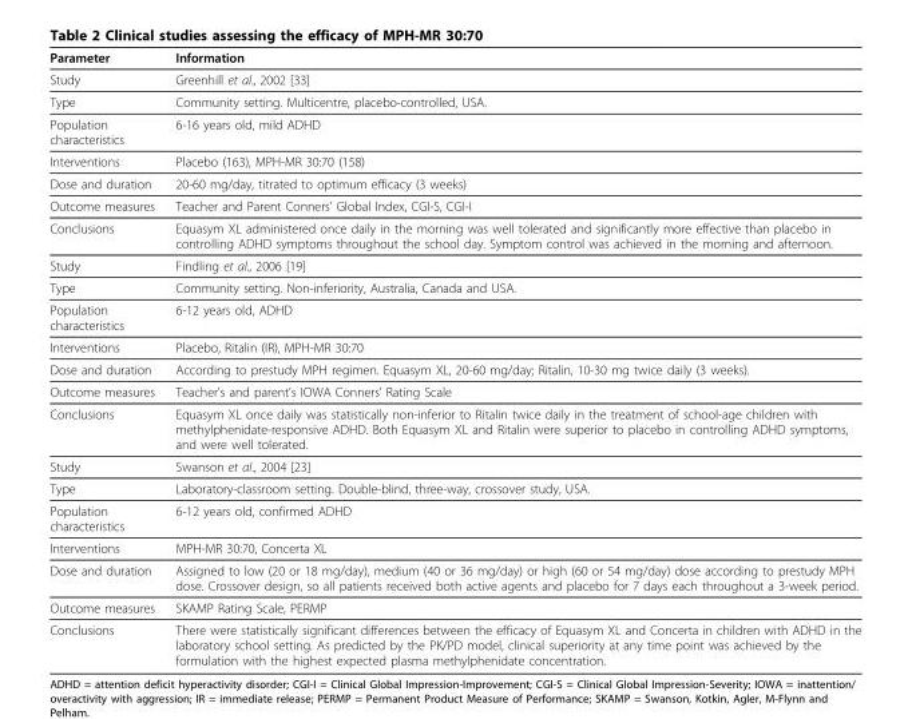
<table><thead><tr><td>Parameter</td><td>Information</td></tr></thead><tbody><tr><td>Study</td><td>Greenhill et al., 2002 [33]</td></tr><tr><td>Type</td><td>Community setting. Multicentre, placebo-controlled, USA.</td></tr><tr><td>Population characteristics</td><td>6-16 years old, mild ADHD</td></tr><tr><td>Interventions</td><td>Placebo (163), MPH-MR 30:70 (158)</td></tr><tr><td>Dose and duration</td><td>20-60 mg/day, titrated to optimum efficacy (3 weeks)</td></tr><tr><td>Outcome measures</td><td>Teacher and Parent Conners’ Global Index, CGI-S, CGI-I</td></tr><tr><td>Conclusions</td><td>Equasym XL administered once daily in the morning was well tolerated and significantly more effective than placebo in controlling ADHD symptoms throughout the school day. Symptom control was achieved in the morning and afternoon.</td></tr><tr><td>Study</td><td>Findling et al., 2006 [19]</td></tr><tr><td>Type</td><td>Community setting. Non-inferiority, Australia, Canada and USA.</td></tr><tr><td>Population characteristics</td><td>6-12 years old, ADHD</td></tr><tr><td>Interventions</td><td>Placebo, Ritalin (IR), MPH-MR 30:70</td></tr><tr><td>Dose and duration</td><td>According to prestudy MPH regimen. Equasym XL, 20-60 mg/day; Ritalin, 10-30 mg twice daily (3 weeks).</td></tr><tr><td>Outcome measures</td><td>Teacher’s and parent’s IOWA Conners’ Rating Scale</td></tr><tr><td>Conclusions</td><td>Equasym XL once daily was statistically non-inferior to Ritalin twice daily in the treatment of school-age children with methylphenidate-responsive ADHD. Both Equasym XL and Ritalin were superior to placebo in controlling ADHD symptoms, and were well tolerated.</td></tr><tr><td>Study</td><td>Swanson et al., 2004 [23]</td></tr><tr><td>Type</td><td>Laboratory-classroom setting. Double-blind, three-way, crossover study, USA.</td></tr><tr><td>Population characteristics</td><td>6-12 years old, confirmed ADHD</td></tr><tr><td>Interventions</td><td>MPH-MR 30:70, Concerta XL</td></tr><tr><td>Dose and duration</td><td>Assigned to low (20 or 18 mg/day), medium (40 or 36 mg/day) or high (60 or 54 mg/day) dose according to prestudy MPH dose. Crossover design, so all patients received both active agents and placebo for 7 days each throughout a 3-week period.</td></tr><tr><td>Outcome measures</td><td>SKAMP Rating Scale, PERMP</td></tr><tr><td>Conclusions</td><td>There were statistically significant differences between the efficacy of Equasym XL and Concerta in children with ADHD in the laboratory school setting. As predicted by the PK/PD model, clinical superiority at any time point was achieved by the formulation with the highest expected plasma methylphenidate concentration.</td></tr></tbody></table>